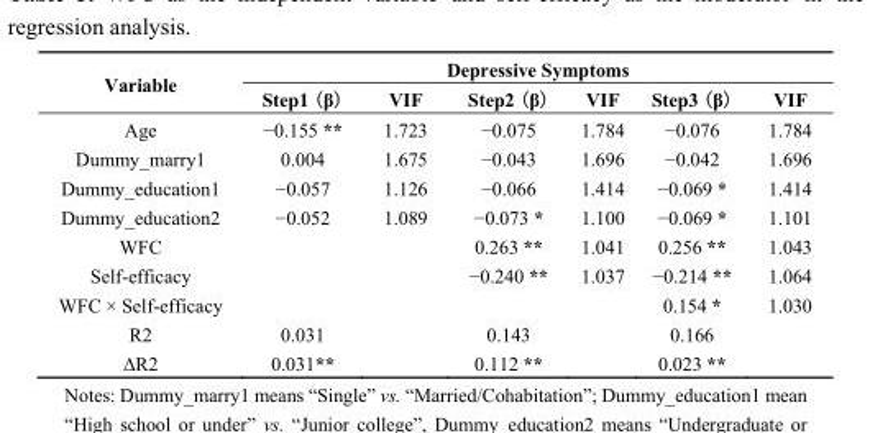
<table><thead><tr><td rowspan="2">Variable</td><td colspan="6">Depressive Symptoms</td></tr><tr><td>Step1 (β)</td><td>VIF</td><td>Step2 (β)</td><td>VIF</td><td>Step3 (β)</td><td>VIF</td></tr></thead><tbody><tr><td>Age</td><td>−0.155 **</td><td>1.723</td><td>−0.075</td><td>1.784</td><td>−0.076</td><td>1.784</td></tr><tr><td>Dummy_marry1</td><td>0.004</td><td>1.675</td><td>−0.043</td><td>1.696</td><td>−0.042</td><td>1.696</td></tr><tr><td>Dummy_education1</td><td>−0.057</td><td>1.126</td><td>−0.066</td><td>1.414</td><td>−0.069 *</td><td>1.414</td></tr><tr><td>Dummy_education2</td><td>−0.052</td><td>1.089</td><td>−0.073 *</td><td>1.100</td><td>−0.069 *</td><td>1.101</td></tr><tr><td>WFC</td><td></td><td></td><td>0.263 **</td><td>1.041</td><td>0.256 **</td><td>1.043</td></tr><tr><td>Self-efficacy</td><td></td><td></td><td>−0.240 **</td><td>1.037</td><td>−0.214 **</td><td>1.064</td></tr><tr><td>WFC × Self-efficacy</td><td></td><td></td><td></td><td></td><td>0.154 *</td><td>1.030</td></tr><tr><td>R2</td><td>0.031</td><td></td><td>0.143</td><td></td><td>0.166</td><td></td></tr><tr><td>ΔR2</td><td>0.031**</td><td></td><td>0.112 **</td><td></td><td>0.023 **</td><td></td></tr></tbody></table>